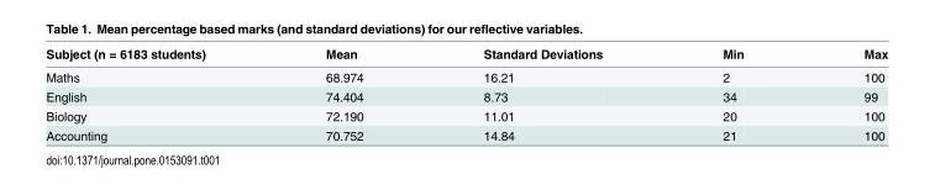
<table><thead><tr><td>Subject (n = 6183 students)</td><td>Mean</td><td>Standard Deviations</td><td>Min</td><td>Max</td></tr></thead><tbody><tr><td>Maths</td><td>68.974</td><td>16.21</td><td>2</td><td>100</td></tr><tr><td>English</td><td>74.404</td><td>8.73</td><td>34</td><td>99</td></tr><tr><td>Biology</td><td>72.190</td><td>11.01</td><td>20</td><td>100</td></tr><tr><td>Accounting</td><td>70.752</td><td>14.84</td><td>21</td><td>100</td></tr></tbody></table>